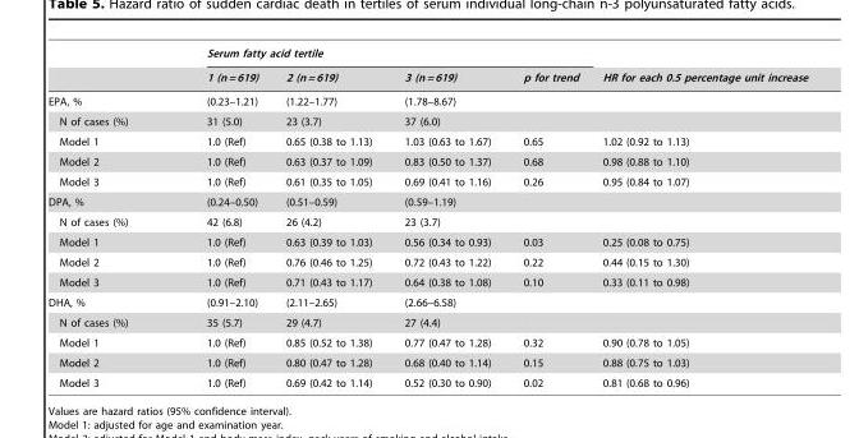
<table><thead><tr><td rowspan="2"></td><td colspan="4">Serum fatty acid tertile</td><td rowspan="2">HR for each 0.5 percentage unit increase</td></tr><tr><td>1 (n = 619)</td><td>2 (n = 619)</td><td>3 (n = 619)</td><td>p for trend</td></tr></thead><tbody><tr><td>EPA, %</td><td>(0.23–1.21)</td><td>(1.22–1.77)</td><td>(1.78–8.67)</td><td></td><td></td></tr><tr><td>N of cases (%)</td><td>31 (5.0)</td><td>23 (3.7)</td><td>37 (6.0)</td><td></td><td></td></tr><tr><td>Model 1</td><td>1.0 (Ref)</td><td>0.65 (0.38 to 1.13)</td><td>1.03 (0.63 to 1.67)</td><td>0.65</td><td>1.02 (0.92 to 1.13)</td></tr><tr><td>Model 2</td><td>1.0 (Ref)</td><td>0.63 (0.37 to 1.09)</td><td>0.83 (0.50 to 1.37)</td><td>0.68</td><td>0.98 (0.88 to 1.10)</td></tr><tr><td>Model 3</td><td>1.0 (Ref)</td><td>0.61 (0.35 to 1.05)</td><td>0.69 (0.41 to 1.16)</td><td>0.26</td><td>0.95 (0.84 to 1.07)</td></tr><tr><td>DPA, %</td><td>(0.24–0.50)</td><td>(0.51–0.59)</td><td>(0.59–1.19)</td><td></td><td></td></tr><tr><td>N of cases (%)</td><td>42 (6.8)</td><td>26 (4.2)</td><td>23 (3.7)</td><td></td><td></td></tr><tr><td>Model 1</td><td>1.0 (Ref)</td><td>0.63 (0.39 to 1.03)</td><td>0.56 (0.34 to 0.93)</td><td>0.03</td><td>0.25 (0.08 to 0.75)</td></tr><tr><td>Model 2</td><td>1.0 (Ref)</td><td>0.76 (0.46 to 1.25)</td><td>0.72 (0.43 to 1.22)</td><td>0.22</td><td>0.44 (0.15 to 1.30)</td></tr><tr><td>Model 3</td><td>1.0 (Ref)</td><td>0.71 (0.43 to 1.17)</td><td>0.64 (0.38 to 1.08)</td><td>0.10</td><td>0.33 (0.11 to 0.98)</td></tr><tr><td>DHA, %</td><td>(0.91–2.10)</td><td>(2.11–2.65)</td><td>(2.66–6.58)</td><td></td><td></td></tr><tr><td>N of cases (%)</td><td>35 (5.7)</td><td>29 (4.7)</td><td>27 (4.4)</td><td></td><td></td></tr><tr><td>Model 1</td><td>1.0 (Ref)</td><td>0.85 (0.52 to 1.38)</td><td>0.77 (0.47 to 1.28)</td><td>0.32</td><td>0.90 (0.78 to 1.05)</td></tr><tr><td>Model 2</td><td>1.0 (Ref)</td><td>0.80 (0.47 to 1.28)</td><td>0.68 (0.40 to 1.14)</td><td>0.15</td><td>0.88 (0.75 to 1.03)</td></tr><tr><td>Model 3</td><td>1.0 (Ref)</td><td>0.69 (0.42 to 1.14)</td><td>0.52 (0.30 to 0.90)</td><td>0.02</td><td>0.81 (0.68 to 0.96)</td></tr></tbody></table>